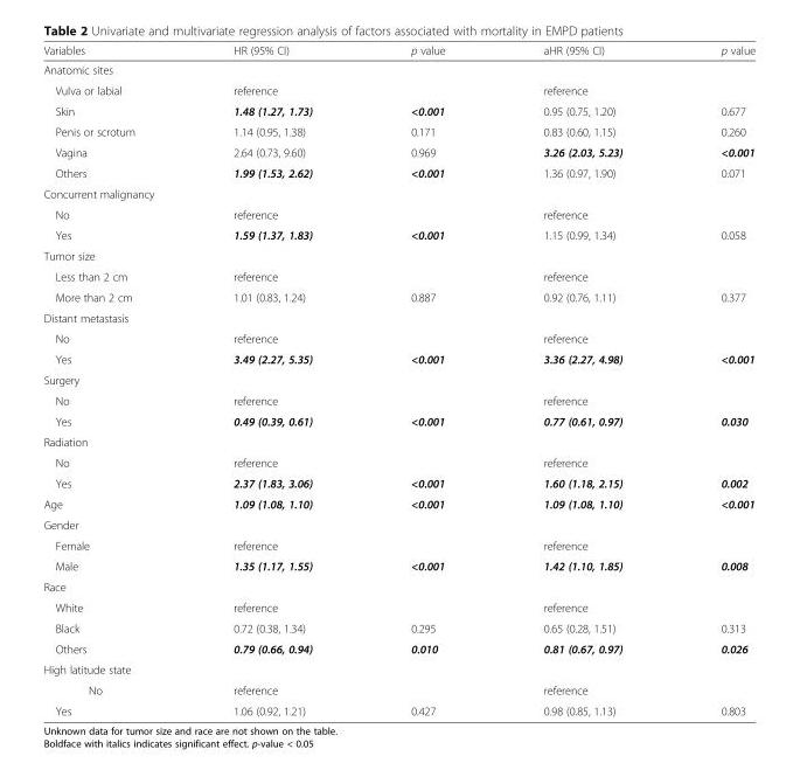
<table><thead><tr><td>Variables</td><td>HR (95% CI)</td><td>p value</td><td>aHR (95% CI)</td><td>p value</td></tr></thead><tbody><tr><td colspan="5">Anatomic sites</td></tr><tr><td>Vulva or labial</td><td>reference</td><td></td><td>reference</td><td></td></tr><tr><td>Skin</td><td>1.48 (1.27, 1.73)</td><td>&lt;0.001</td><td>0.95 (0.75, 1.20)</td><td>0.677</td></tr><tr><td>Penis or scrotum</td><td>1.14 (0.95, 1.38)</td><td>0.171</td><td>0.83 (0.60, 1.15)</td><td>0.260</td></tr><tr><td>Vagina</td><td>2.64 (0.73, 9.60)</td><td>0.969</td><td>3.26 (2.03, 5.23)</td><td>&lt;0.001</td></tr><tr><td>Others</td><td>1.99 (1.53, 2.62)</td><td>&lt;0.001</td><td>1.36 (0.97, 1.90)</td><td>0.071</td></tr><tr><td colspan="5">Concurrent malignancy</td></tr><tr><td>No</td><td>reference</td><td></td><td>reference</td><td></td></tr><tr><td>Yes</td><td>1.59 (1.37, 1.83)</td><td>&lt;0.001</td><td>1.15 (0.99, 1.34)</td><td>0.058</td></tr><tr><td colspan="5">Tumor size</td></tr><tr><td>Less than 2 cm</td><td>reference</td><td></td><td>reference</td><td></td></tr><tr><td>More than 2 cm</td><td>1.01 (0.83, 1.24)</td><td>0.887</td><td>0.92 (0.76, 1.11)</td><td>0.377</td></tr><tr><td colspan="5">Distant metastasis</td></tr><tr><td>No</td><td>reference</td><td></td><td>reference</td><td></td></tr><tr><td>Yes</td><td>3.49 (2.27, 5.35)</td><td>&lt;0.001</td><td>3.36 (2.27, 4.98)</td><td>&lt;0.001</td></tr><tr><td colspan="5">Surgery</td></tr><tr><td>No</td><td>reference</td><td></td><td>reference</td><td></td></tr><tr><td>Yes</td><td>0.49 (0.39, 0.61)</td><td>&lt;0.001</td><td>0.77 (0.61, 0.97)</td><td>0.030</td></tr><tr><td colspan="5">Radiation</td></tr><tr><td>No</td><td>reference</td><td></td><td>reference</td><td></td></tr><tr><td>Yes</td><td>2.37 (1.83, 3.06)</td><td>&lt;0.001</td><td>1.60 (1.18, 2.15)</td><td>0.002</td></tr><tr><td>Age</td><td>1.09 (1.08, 1.10)</td><td>&lt;0.001</td><td>1.09 (1.08, 1.10)</td><td>&lt;0.001</td></tr><tr><td colspan="5">Gender</td></tr><tr><td>Female</td><td>reference</td><td></td><td>reference</td><td></td></tr><tr><td>Male</td><td>1.35 (1.17, 1.55)</td><td>&lt;0.001</td><td>1.42 (1.10, 1.85)</td><td>0.008</td></tr><tr><td colspan="5">Race</td></tr><tr><td>White</td><td>reference</td><td></td><td>reference</td><td></td></tr><tr><td>Black</td><td>0.72 (0.38, 1.34)</td><td>0.295</td><td>0.65 (0.28, 1.51)</td><td>0.313</td></tr><tr><td>Others</td><td>0.79 (0.66, 0.94)</td><td>0.010</td><td>0.81 (0.67, 0.97)</td><td>0.026</td></tr><tr><td colspan="5">High latitude state</td></tr><tr><td>No</td><td>reference</td><td></td><td>reference</td><td></td></tr><tr><td>Yes</td><td>1.06 (0.92, 1.21)</td><td>0.427</td><td>0.98 (0.85, 1.13)</td><td>0.803</td></tr></tbody></table>